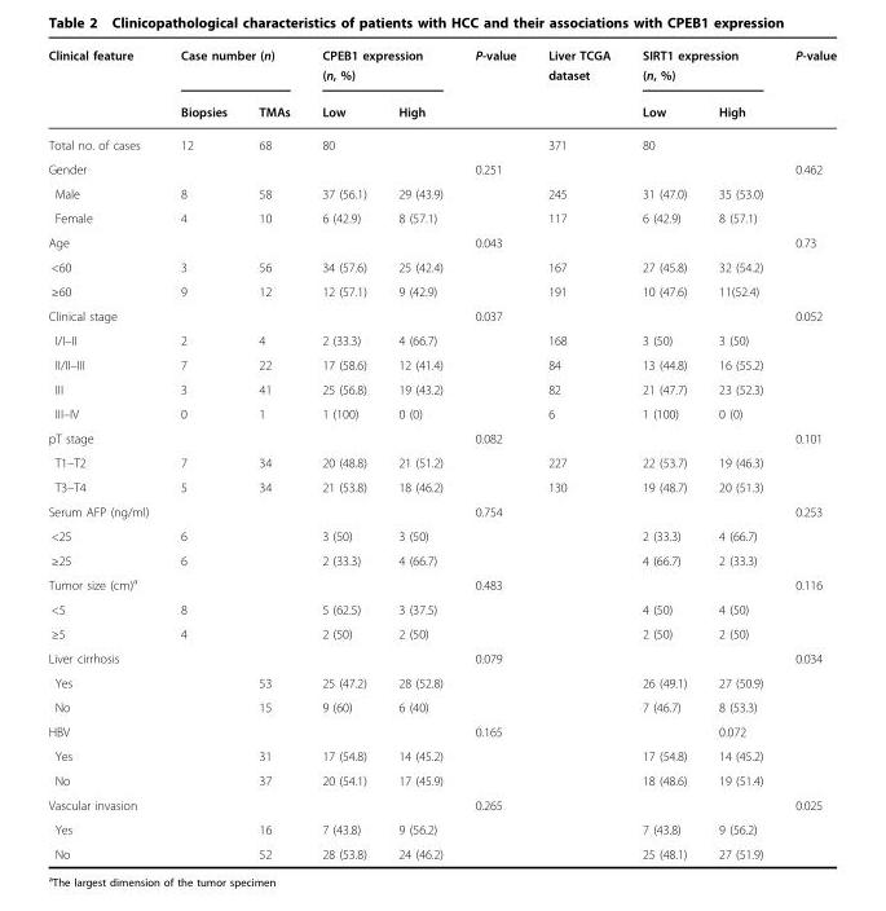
<table><thead><tr><td rowspan="2">Clinical feature</td><td colspan="2">Case number (n)</td><td colspan="2">CPEB1 expression (n, %)</td><td rowspan="2">P-value</td><td rowspan="2">Liver TCGA dataset</td><td colspan="2">SIRT1 expression (n, %)</td><td rowspan="2">P-value</td></tr><tr><td>Biopsies</td><td>TMAs</td><td>Low</td><td>High</td><td>Low</td><td>High</td></tr></thead><tbody><tr><td>Total no. of cases</td><td>12</td><td>68</td><td colspan="3">80</td><td>371</td><td colspan="3">80</td></tr><tr><td>Gender</td><td></td><td></td><td></td><td></td><td>0.251</td><td></td><td></td><td></td><td>0.462</td></tr><tr><td>Male</td><td>8</td><td>58</td><td>37 (56.1)</td><td>29 (43.9)</td><td></td><td>245</td><td>31 (47.0)</td><td>35 (53.0)</td><td></td></tr><tr><td>Female</td><td>4</td><td>10</td><td>6 (42.9)</td><td>8 (57.1)</td><td></td><td>117</td><td>6 (42.9)</td><td>8 (57.1)</td><td></td></tr><tr><td>Age</td><td></td><td></td><td></td><td></td><td>0.043</td><td></td><td></td><td></td><td>0.73</td></tr><tr><td>&lt;60</td><td>3</td><td>56</td><td>34 (57.6)</td><td>25 (42.4)</td><td></td><td>167</td><td>27 (45.8)</td><td>32 (54.2)</td><td></td></tr><tr><td>≥60</td><td>9</td><td>12</td><td>12 (57.1)</td><td>9 (42.9)</td><td></td><td>191</td><td>10 (47.6)</td><td>11(52.4)</td><td></td></tr><tr><td>Clinical stage</td><td></td><td></td><td></td><td></td><td>0.037</td><td></td><td></td><td></td><td>0.052</td></tr><tr><td>I/I–II</td><td>2</td><td>4</td><td>2 (33.3)</td><td>4 (66.7)</td><td></td><td>168</td><td>3 (50)</td><td>3 (50)</td><td></td></tr><tr><td>II/II–III</td><td>7</td><td>22</td><td>17 (58.6)</td><td>12 (41.4)</td><td></td><td>84</td><td>13 (44.8)</td><td>16 (55.2)</td><td></td></tr><tr><td>III</td><td>3</td><td>41</td><td>25 (56.8)</td><td>19 (43.2)</td><td></td><td>82</td><td>21 (47.7)</td><td>23 (52.3)</td><td></td></tr><tr><td>III–IV</td><td>0</td><td>1</td><td>1 (100)</td><td>0 (0)</td><td></td><td>6</td><td>1 (100)</td><td>0 (0)</td><td></td></tr><tr><td>pT stage</td><td></td><td></td><td></td><td></td><td>0.082</td><td></td><td></td><td></td><td>0.101</td></tr><tr><td>T1–T2</td><td>7</td><td>34</td><td>20 (48.8)</td><td>21 (51.2)</td><td></td><td>227</td><td>22 (53.7)</td><td>19 (46.3)</td><td></td></tr><tr><td>T3–T4</td><td>5</td><td>34</td><td>21 (53.8)</td><td>18 (46.2)</td><td></td><td>130</td><td>19 (48.7)</td><td>20 (51.3)</td><td></td></tr><tr><td>Serum AFP (ng/ml)</td><td></td><td></td><td></td><td></td><td>0.754</td><td></td><td></td><td></td><td>0.253</td></tr><tr><td>&lt;25</td><td>6</td><td></td><td>3 (50)</td><td>3 (50)</td><td></td><td></td><td>2 (33.3)</td><td>4 (66.7)</td><td></td></tr><tr><td>≥25</td><td>6</td><td></td><td>2 (33.3)</td><td>4 (66.7)</td><td></td><td></td><td>4 (66.7)</td><td>2 (33.3)</td><td></td></tr><tr><td>Tumor size (cm)<sup>a</sup></td><td></td><td></td><td></td><td></td><td>0.483</td><td></td><td></td><td></td><td>0.116</td></tr><tr><td>&lt;5</td><td>8</td><td></td><td>5 (62.5)</td><td>3 (37.5)</td><td></td><td></td><td>4 (50)</td><td>4 (50)</td><td></td></tr><tr><td>≥5</td><td>4</td><td></td><td>2 (50)</td><td>2 (50)</td><td></td><td></td><td>2 (50)</td><td>2 (50)</td><td></td></tr><tr><td>Liver cirrhosis</td><td></td><td></td><td></td><td></td><td>0.079</td><td></td><td></td><td></td><td>0.034</td></tr><tr><td>Yes</td><td></td><td>53</td><td>25 (47.2)</td><td>28 (52.8)</td><td></td><td></td><td>26 (49.1)</td><td>27 (50.9)</td><td></td></tr><tr><td>No</td><td></td><td>15</td><td>9 (60)</td><td>6 (40)</td><td></td><td></td><td>7 (46.7)</td><td>8 (53.3)</td><td></td></tr><tr><td>HBV</td><td></td><td></td><td></td><td></td><td>0.165</td><td></td><td></td><td>0.072</td><td></td></tr><tr><td>Yes</td><td></td><td>31</td><td>17 (54.8)</td><td>14 (45.2)</td><td></td><td></td><td>17 (54.8)</td><td>14 (45.2)</td><td></td></tr><tr><td>No</td><td></td><td>37</td><td>20 (54.1)</td><td>17 (45.9)</td><td></td><td></td><td>18 (48.6)</td><td>19 (51.4)</td><td></td></tr><tr><td>Vascular invasion</td><td></td><td></td><td></td><td></td><td>0.265</td><td></td><td></td><td></td><td>0.025</td></tr><tr><td>Yes</td><td></td><td>16</td><td>7 (43.8)</td><td>9 (56.2)</td><td></td><td></td><td>7 (43.8)</td><td>9 (56.2)</td><td></td></tr><tr><td>No</td><td></td><td>52</td><td>28 (53.8)</td><td>24 (46.2)</td><td></td><td></td><td>25 (48.1)</td><td>27 (51.9)</td><td></td></tr></tbody></table>